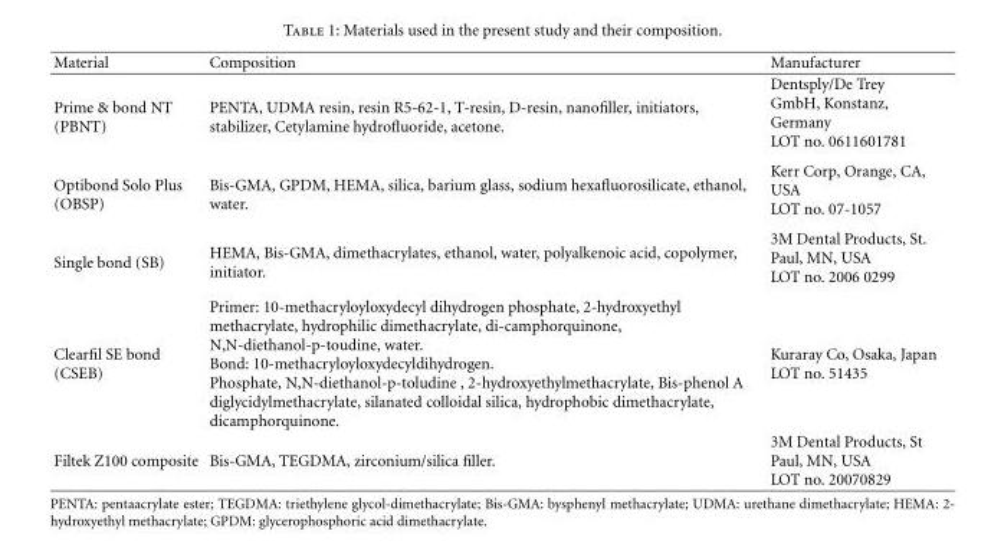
<table><thead><tr><td>Material</td><td>Composition</td><td>Manufacturer</td></tr></thead><tbody><tr><td>Prime &amp; bond NT (PBNT)</td><td>PENTA, UDMA resin, resin R5-62-1, T-resin, D-resin, nanofiller, initiators, stabilizer, Cetylamine hydrofluoride, acetone.</td><td>Dentsply/De Trey GmbH, Konstanz, Germany LOT no. 0611601781</td></tr><tr><td>Optibond Solo Plus (OBSP)</td><td>Bis-GMA, GPDM, HEMA, silica, barium glass, sodium hexafluorosilicate, ethanol, water.</td><td>Kerr Corp, Orange, CA, USA LOT no. 07-1057</td></tr><tr><td>Single bond (SB)</td><td>HEMA, Bis-GMA, dimethacrylates, ethanol, water, polyalkenoic acid, copolymer, initiator.</td><td>3M Dental Products, St. Paul, MN, USA LOT no. 2006 0299</td></tr><tr><td>Clearfil SE bond (CSEB)</td><td>Primer: 10-methacryloyloxydecyl dihydrogen phosphate, 2-hydroxyethyl methacrylate, hydrophilic dimethacrylate, di-camphorquinone, N,N-diethanol-p-toudine, water. Bond: 10-methacryloyloxydecyldihydrogen. Phosphate, N,N-diethanol-p-toludine , 2-hydroxyethylmethacrylate, Bis-phenol A diglycidylmethacrylate, silanated colloidal silica, hydrophobic dimethacrylate, dicamphorquinone.</td><td>Kuraray Co, Osaka, Japan LOT no. 51435</td></tr><tr><td>Filtek Z100 composite</td><td>Bis-GMA, TEGDMA, zirconium/silica filler.</td><td>3M Dental Products, St Paul, MN, USA LOT no. 20070829</td></tr></tbody></table>